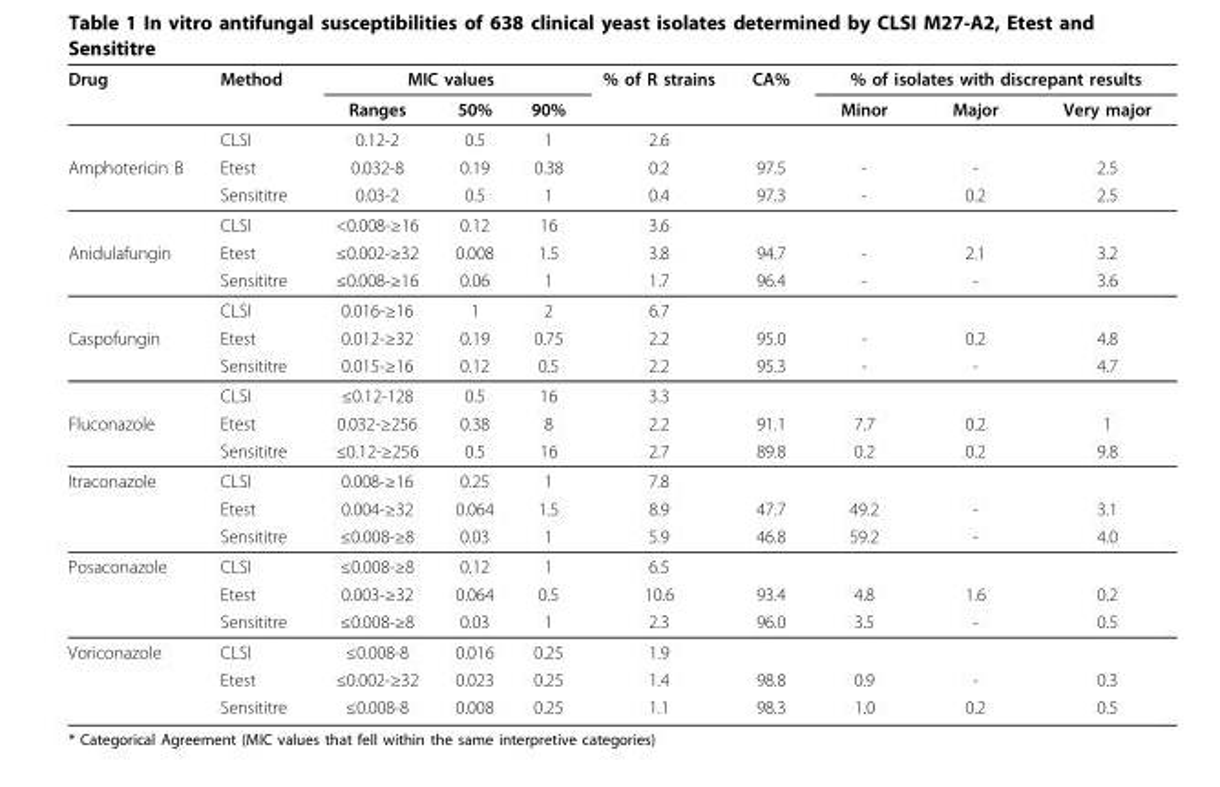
<table><thead><tr><td rowspan="2">Drug</td><td rowspan="2">Method</td><td colspan="3">MIC values</td><td rowspan="2">% of R strains</td><td rowspan="2">CA%</td><td colspan="3">% of isolates with discrepant results</td></tr><tr><td>Ranges</td><td>50%</td><td>90%</td><td>Minor</td><td>Major</td><td>Very major</td></tr></thead><tbody><tr><td></td><td>CLSI</td><td>0.12-2</td><td>0.5</td><td>1</td><td>2.6</td><td></td><td></td><td></td><td></td></tr><tr><td rowspan="3">Amphotericin B</td><td>Etest</td><td>0.032-8</td><td>0.19</td><td>0.38</td><td>0.2</td><td>97.5</td><td>-</td><td>-</td><td>2.5</td></tr><tr><td>Sensititre</td><td>0.03-2</td><td>0.5</td><td>1</td><td>0.4</td><td>97.3</td><td>-</td><td>0.2</td><td>2.5</td></tr><tr><td>CLSI</td><td>&lt;0.008-≥16</td><td>0.12</td><td>16</td><td>3.6</td><td></td><td></td><td></td><td></td></tr><tr><td rowspan="3">Anidulafungin</td><td>Etest</td><td>≤0.002-≥32</td><td>0.008</td><td>1.5</td><td>3.8</td><td>94.7</td><td>-</td><td>2.1</td><td>3.2</td></tr><tr><td>Sensititre</td><td>≤0.008-≥16</td><td>0.06</td><td>1</td><td>1.7</td><td>96.4</td><td>-</td><td>-</td><td>3.6</td></tr><tr><td>CLSI</td><td>0.016-≥16</td><td>1</td><td>2</td><td>6.7</td><td></td><td></td><td></td><td></td></tr><tr><td rowspan="3">Caspofungin</td><td>Etest</td><td>0.012-≥32</td><td>0.19</td><td>0.75</td><td>2.2</td><td>95.0</td><td>-</td><td>0.2</td><td>4.8</td></tr><tr><td>Sensititre</td><td>0.015-≥16</td><td>0.12</td><td>0.5</td><td>2.2</td><td>95.3</td><td>-</td><td>-</td><td>4.7</td></tr><tr><td>CLSI</td><td>≤0.12-128</td><td>0.5</td><td>16</td><td>3.3</td><td></td><td></td><td></td><td></td></tr><tr><td rowspan="2">Fluconazole</td><td>Etest</td><td>0.032-≥256</td><td>0.38</td><td>8</td><td>2.2</td><td>91.1</td><td>7.7</td><td>0.2</td><td>1</td></tr><tr><td>Sensititre</td><td>≤0.12-≥256</td><td>0.5</td><td>16</td><td>2.7</td><td>89.8</td><td>0.2</td><td>0.2</td><td>9.8</td></tr><tr><td rowspan="3">Itraconazole</td><td>CLSI</td><td>0.008-≥16</td><td>0.25</td><td>1</td><td>7.8</td><td></td><td></td><td></td><td></td></tr><tr><td>Etest</td><td>0.004-≥32</td><td>0.064</td><td>1.5</td><td>8.9</td><td>47.7</td><td>49.2</td><td>-</td><td>3.1</td></tr><tr><td>Sensititre</td><td>≤0.008-≥8</td><td>0.03</td><td>1</td><td>5.9</td><td>46.8</td><td>59.2</td><td>-</td><td>4.0</td></tr><tr><td rowspan="3">Posaconazole</td><td>CLSI</td><td>≤0.008-≥8</td><td>0.12</td><td>1</td><td>6.5</td><td></td><td></td><td></td><td></td></tr><tr><td>Etest</td><td>0.003-≥32</td><td>0.064</td><td>0.5</td><td>10.6</td><td>93.4</td><td>4.8</td><td>1.6</td><td>0.2</td></tr><tr><td>Sensititre</td><td>≤0.008-≥8</td><td>0.03</td><td>1</td><td>2.3</td><td>96.0</td><td>3.5</td><td>-</td><td>0.5</td></tr><tr><td rowspan="3">Voriconazole</td><td>CLSI</td><td>≤0.008-8</td><td>0.016</td><td>0.25</td><td>1.9</td><td></td><td></td><td></td><td></td></tr><tr><td>Etest</td><td>≤0.002-≥32</td><td>0.023</td><td>0.25</td><td>1.4</td><td>98.8</td><td>0.9</td><td>-</td><td>0.3</td></tr><tr><td>Sensititre</td><td>≤0.008-8</td><td>0.008</td><td>0.25</td><td>1.1</td><td>98.3</td><td>1.0</td><td>0.2</td><td>0.5</td></tr></tbody></table>